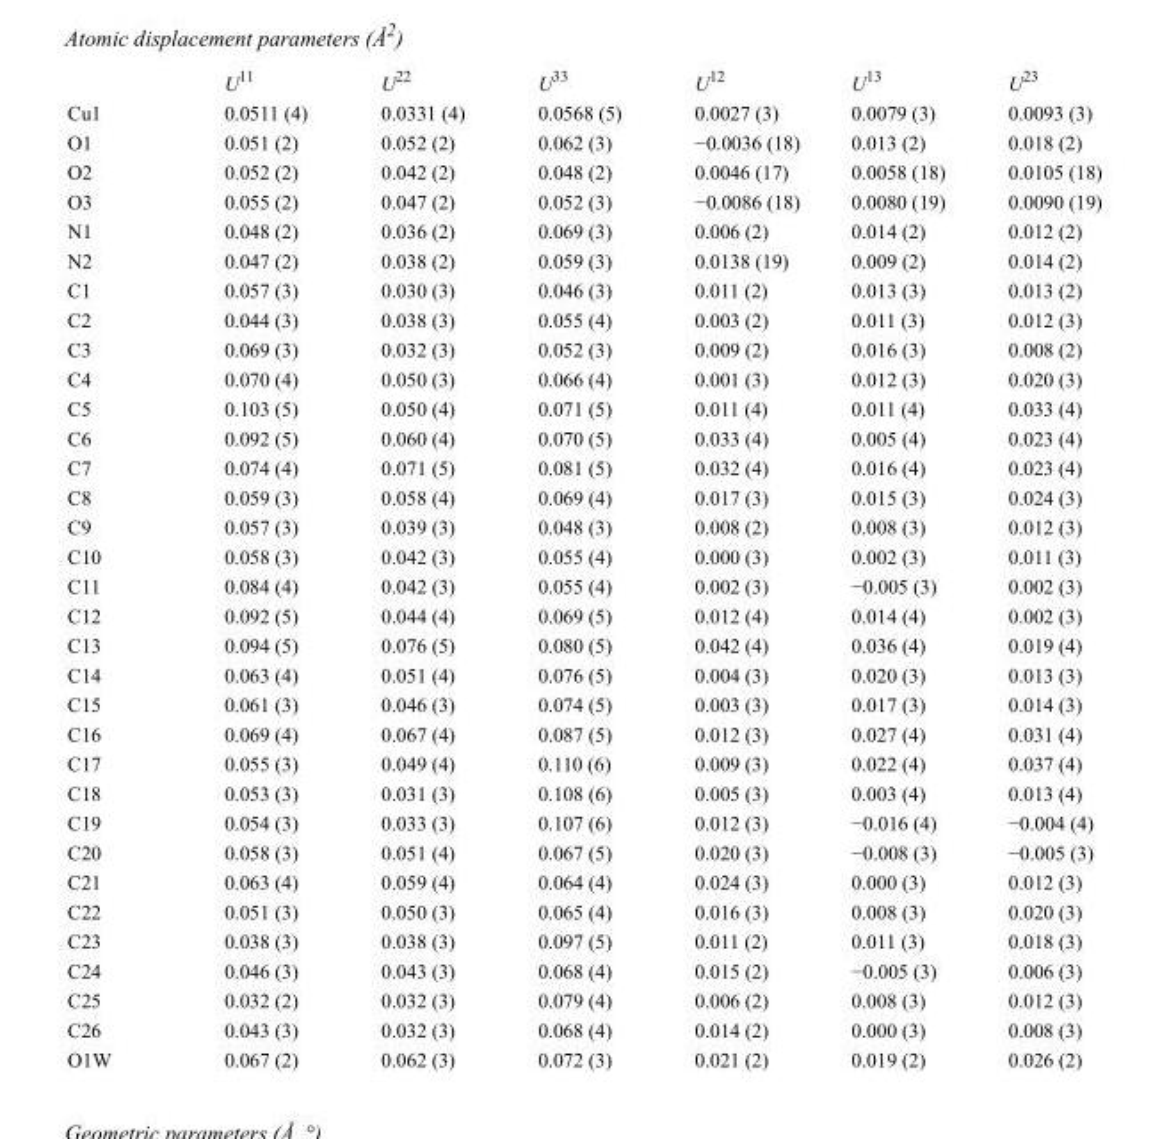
<table><thead><tr><td></td><td>U<sup>11</sup></td><td>U<sup>22</sup></td><td>U<sup>33</sup></td><td>U<sup>12</sup></td><td>U<sup>13</sup></td><td>U<sup>23</sup></td></tr></thead><tbody><tr><td>Cu1</td><td>0.0511 (4)</td><td>0.0331 (4)</td><td>0.0568 (5)</td><td>0.0027 (3)</td><td>0.0079 (3)</td><td>0.0093 (3)</td></tr><tr><td>O1</td><td>0.051 (2)</td><td>0.052 (2)</td><td>0.062 (3)</td><td>−0.0036 (18)</td><td>0.013 (2)</td><td>0.018 (2)</td></tr><tr><td>O2</td><td>0.052 (2)</td><td>0.042 (2)</td><td>0.048 (2)</td><td>0.0046 (17)</td><td>0.0058 (18)</td><td>0.0105 (18)</td></tr><tr><td>O3</td><td>0.055 (2)</td><td>0.047 (2)</td><td>0.052 (3)</td><td>−0.0086 (18)</td><td>0.0080 (19)</td><td>0.0090 (19)</td></tr><tr><td>N1</td><td>0.048 (2)</td><td>0.036 (2)</td><td>0.069 (3)</td><td>0.006 (2)</td><td>0.014 (2)</td><td>0.012 (2)</td></tr><tr><td>N2</td><td>0.047 (2)</td><td>0.038 (2)</td><td>0.059 (3)</td><td>0.0138 (19)</td><td>0.009 (2)</td><td>0.014 (2)</td></tr><tr><td>C1</td><td>0.057 (3)</td><td>0.030 (3)</td><td>0.046 (3)</td><td>0.011 (2)</td><td>0.013 (3)</td><td>0.013 (2)</td></tr><tr><td>C2</td><td>0.044 (3)</td><td>0.038 (3)</td><td>0.055 (4)</td><td>0.003 (2)</td><td>0.011 (3)</td><td>0.012 (3)</td></tr><tr><td>C3</td><td>0.069 (3)</td><td>0.032 (3)</td><td>0.052 (3)</td><td>0.009 (2)</td><td>0.016 (3)</td><td>0.008 (2)</td></tr><tr><td>C4</td><td>0.070 (4)</td><td>0.050 (3)</td><td>0.066 (4)</td><td>0.001 (3)</td><td>0.012 (3)</td><td>0.020 (3)</td></tr><tr><td>C5</td><td>0.103 (5)</td><td>0.050 (4)</td><td>0.071 (5)</td><td>0.011 (4)</td><td>0.011 (4)</td><td>0.033 (4)</td></tr><tr><td>C6</td><td>0.092 (5)</td><td>0.060 (4)</td><td>0.070 (5)</td><td>0.033 (4)</td><td>0.005 (4)</td><td>0.023 (4)</td></tr><tr><td>C7</td><td>0.074 (4)</td><td>0.071 (5)</td><td>0.081 (5)</td><td>0.032 (4)</td><td>0.016 (4)</td><td>0.023 (4)</td></tr><tr><td>C8</td><td>0.059 (3)</td><td>0.058 (4)</td><td>0.069 (4)</td><td>0.017 (3)</td><td>0.015 (3)</td><td>0.024 (3)</td></tr><tr><td>C9</td><td>0.057 (3)</td><td>0.039 (3)</td><td>0.048 (3)</td><td>0.008 (2)</td><td>0.008 (3)</td><td>0.012 (3)</td></tr><tr><td>C10</td><td>0.058 (3)</td><td>0.042 (3)</td><td>0.055 (4)</td><td>0.000 (3)</td><td>0.002 (3)</td><td>0.011 (3)</td></tr><tr><td>C11</td><td>0.084 (4)</td><td>0.042 (3)</td><td>0.055 (4)</td><td>0.002 (3)</td><td>−0.005 (3)</td><td>0.002 (3)</td></tr><tr><td>C12</td><td>0.092 (5)</td><td>0.044 (4)</td><td>0.069 (5)</td><td>0.012 (4)</td><td>0.014 (4)</td><td>0.002 (3)</td></tr><tr><td>C13</td><td>0.094 (5)</td><td>0.076 (5)</td><td>0.080 (5)</td><td>0.042 (4)</td><td>0.036 (4)</td><td>0.019 (4)</td></tr><tr><td>C14</td><td>0.063 (4)</td><td>0.051 (4)</td><td>0.076 (5)</td><td>0.004 (3)</td><td>0.020 (3)</td><td>0.013 (3)</td></tr><tr><td>C15</td><td>0.061 (3)</td><td>0.046 (3)</td><td>0.074 (5)</td><td>0.003 (3)</td><td>0.017 (3)</td><td>0.014 (3)</td></tr><tr><td>C16</td><td>0.069 (4)</td><td>0.067 (4)</td><td>0.087 (5)</td><td>0.012 (3)</td><td>0.027 (4)</td><td>0.031 (4)</td></tr><tr><td>C17</td><td>0.055 (3)</td><td>0.049 (4)</td><td>0.110 (6)</td><td>0.009 (3)</td><td>0.022 (4)</td><td>0.037 (4)</td></tr><tr><td>C18</td><td>0.053 (3)</td><td>0.031 (3)</td><td>0.108 (6)</td><td>0.005 (3)</td><td>0.003 (4)</td><td>0.013 (4)</td></tr><tr><td>C19</td><td>0.054 (3)</td><td>0.033 (3)</td><td>0.107 (6)</td><td>0.012 (3)</td><td>−0.016 (4)</td><td>−0.004 (4)</td></tr><tr><td>C20</td><td>0.058 (3)</td><td>0.051 (4)</td><td>0.067 (5)</td><td>0.020 (3)</td><td>−0.008 (3)</td><td>−0.005 (3)</td></tr><tr><td>C21</td><td>0.063 (4)</td><td>0.059 (4)</td><td>0.064 (4)</td><td>0.024 (3)</td><td>0.000 (3)</td><td>0.012 (3)</td></tr><tr><td>C22</td><td>0.051 (3)</td><td>0.050 (3)</td><td>0.065 (4)</td><td>0.016 (3)</td><td>0.008 (3)</td><td>0.020 (3)</td></tr><tr><td>C23</td><td>0.038 (3)</td><td>0.038 (3)</td><td>0.097 (5)</td><td>0.011 (2)</td><td>0.011 (3)</td><td>0.018 (3)</td></tr><tr><td>C24</td><td>0.046 (3)</td><td>0.043 (3)</td><td>0.068 (4)</td><td>0.015 (2)</td><td>−0.005 (3)</td><td>0.006 (3)</td></tr><tr><td>C25</td><td>0.032 (2)</td><td>0.032 (3)</td><td>0.079 (4)</td><td>0.006 (2)</td><td>0.008 (3)</td><td>0.012 (3)</td></tr><tr><td>C26</td><td>0.043 (3)</td><td>0.032 (3)</td><td>0.068 (4)</td><td>0.014 (2)</td><td>0.000 (3)</td><td>0.008 (3)</td></tr><tr><td>O1W</td><td>0.067 (2)</td><td>0.062 (3)</td><td>0.072 (3)</td><td>0.021 (2)</td><td>0.019 (2)</td><td>0.026 (2)</td></tr></tbody></table>